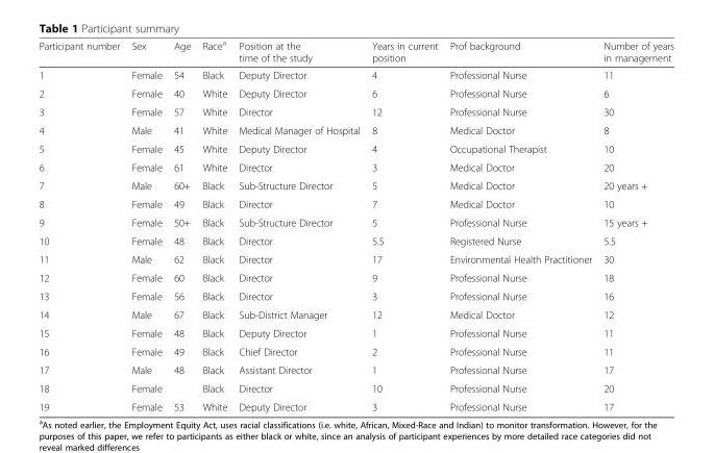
<table><thead><tr><td>Participant number</td><td>Sex</td><td>Age</td><td>Race<sup>a</sup></td><td>Position at the time of the study</td><td>Years in current position</td><td>Prof background</td><td>Number of years in management</td></tr></thead><tbody><tr><td>1</td><td>Female</td><td>54</td><td>Black</td><td>Deputy Director</td><td>4</td><td>Professional Nurse</td><td>11</td></tr><tr><td>2</td><td>Female</td><td>40</td><td>White</td><td>Deputy Director</td><td>6</td><td>Professional Nurse</td><td>6</td></tr><tr><td>3</td><td>Female</td><td>57</td><td>White</td><td>Director</td><td>12</td><td>Professional Nurse</td><td>30</td></tr><tr><td>4</td><td>Male</td><td>41</td><td>White</td><td>Medical Manager of Hospital</td><td>8</td><td>Medical Doctor</td><td>8</td></tr><tr><td>5</td><td>Female</td><td>45</td><td>White</td><td>Deputy Director</td><td>4</td><td>Occupational Therapist</td><td>10</td></tr><tr><td>6</td><td>Female</td><td>61</td><td>White</td><td>Director</td><td>3</td><td>Medical Doctor</td><td>20</td></tr><tr><td>7</td><td>Male</td><td>60+</td><td>Black</td><td>Sub-Structure Director</td><td>5</td><td>Medical Doctor</td><td>20 years +</td></tr><tr><td>8</td><td>Female</td><td>49</td><td>Black</td><td>Director</td><td>7</td><td>Medical Doctor</td><td>10</td></tr><tr><td>9</td><td>Female</td><td>50+</td><td>Black</td><td>Sub-Structure Director</td><td>5</td><td>Professional Nurse</td><td>15 years +</td></tr><tr><td>10</td><td>Female</td><td>48</td><td>Black</td><td>Director</td><td>5.5</td><td>Registered Nurse</td><td>5.5</td></tr><tr><td>11</td><td>Male</td><td>62</td><td>Black</td><td>Director</td><td>17</td><td>Environmental Health Practitioner</td><td>30</td></tr><tr><td>12</td><td>Female</td><td>60</td><td>Black</td><td>Director</td><td>9</td><td>Professional Nurse</td><td>18</td></tr><tr><td>13</td><td>Female</td><td>56</td><td>Black</td><td>Director</td><td>3</td><td>Professional Nurse</td><td>16</td></tr><tr><td>14</td><td>Male</td><td>67</td><td>Black</td><td>Sub-District Manager</td><td>12</td><td>Medical Doctor</td><td>12</td></tr><tr><td>15</td><td>Female</td><td>48</td><td>Black</td><td>Deputy Director</td><td>1</td><td>Professional Nurse</td><td>11</td></tr><tr><td>16</td><td>Female</td><td>49</td><td>Black</td><td>Chief Director</td><td>2</td><td>Professional Nurse</td><td>11</td></tr><tr><td>17</td><td>Male</td><td>48</td><td>Black</td><td>Assistant Director</td><td>1</td><td>Professional Nurse</td><td>17</td></tr><tr><td>18</td><td>Female</td><td></td><td>Black</td><td>Director</td><td>10</td><td>Professional Nurse</td><td>20</td></tr><tr><td>19</td><td>Female</td><td>53</td><td>White</td><td>Deputy Director</td><td>3</td><td>Professional Nurse</td><td>17</td></tr></tbody></table>